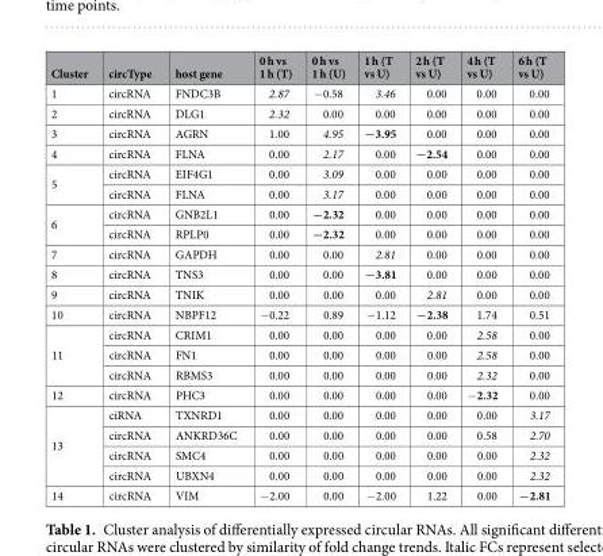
<table><thead><tr><td>Cluster</td><td>circType</td><td>host gene</td><td>0 h vs 1 h (T)</td><td>0 h vs 1 h (U)</td><td>1 h (T vs U)</td><td>2 h (T vs U)</td><td>4 h (T vs U)</td><td>6 h (T vs U)</td></tr></thead><tbody><tr><td>1</td><td>circRNA</td><td>FNDC3B</td><td>2.87</td><td>−0.58</td><td>3.46</td><td>0.00</td><td>0.00</td><td>0.00</td></tr><tr><td>2</td><td>circRNA</td><td>DLG1</td><td>2.32</td><td>0.00</td><td>0.00</td><td>0.00</td><td>0.00</td><td>0.00</td></tr><tr><td>3</td><td>circRNA</td><td>AGRN</td><td>1.00</td><td>4.95</td><td>−3.95</td><td>0.00</td><td>0.00</td><td>0.00</td></tr><tr><td>4</td><td>circRNA</td><td>FLNA</td><td>0.00</td><td>2.17</td><td>0.00</td><td>−2.54</td><td>0.00</td><td>0.00</td></tr><tr><td rowspan="2">5</td><td>circRNA</td><td>EIF4G1</td><td>0.00</td><td>3.09</td><td>0.00</td><td>0.00</td><td>0.00</td><td>0.00</td></tr><tr><td>circRNA</td><td>FLNA</td><td>0.00</td><td>3.17</td><td>0.00</td><td>0.00</td><td>0.00</td><td>0.00</td></tr><tr><td rowspan="2">6</td><td>circRNA</td><td>GNB2L1</td><td>0.00</td><td>−2.32</td><td>0.00</td><td>0.00</td><td>0.00</td><td>0.00</td></tr><tr><td>circRNA</td><td>RPLP0</td><td>0.00</td><td>−2.32</td><td>0.00</td><td>0.00</td><td>0.00</td><td>0.00</td></tr><tr><td>7</td><td>circRNA</td><td>GAPDH</td><td>0.00</td><td>0.00</td><td>2.81</td><td>0.00</td><td>0.00</td><td>0.00</td></tr><tr><td>8</td><td>circRNA</td><td>TNS3</td><td>0.00</td><td>0.00</td><td>−3.81</td><td>0.00</td><td>0.00</td><td>0.00</td></tr><tr><td>9</td><td>circRNA</td><td>TNIK</td><td>0.00</td><td>0.00</td><td>0.00</td><td>2.81</td><td>0.00</td><td>0.00</td></tr><tr><td>10</td><td>circRNA</td><td>NBPF12</td><td>−0.22</td><td>0.89</td><td>−1.12</td><td>−2.38</td><td>1.74</td><td>0.51</td></tr><tr><td rowspan="3">11</td><td>circRNA</td><td>CRIM1</td><td>0.00</td><td>0.00</td><td>0.00</td><td>0.00</td><td>2.58</td><td>0.00</td></tr><tr><td>circRNA</td><td>FN1</td><td>0.00</td><td>0.00</td><td>0.00</td><td>0.00</td><td>2.58</td><td>0.00</td></tr><tr><td>circRNA</td><td>RBMS3</td><td>0.00</td><td>0.00</td><td>0.00</td><td>0.00</td><td>2.32</td><td>0.00</td></tr><tr><td>12</td><td>circRNA</td><td>PHC3</td><td>0.00</td><td>0.00</td><td>0.00</td><td>0.00</td><td>−2.32</td><td>0.00</td></tr><tr><td rowspan="4">13</td><td>ciRNA</td><td>TXNRD1</td><td>0.00</td><td>0.00</td><td>0.00</td><td>0.00</td><td>0.00</td><td>3.17</td></tr><tr><td>circRNA</td><td>ANKRD36C</td><td>0.00</td><td>0.00</td><td>0.00</td><td>0.00</td><td>0.58</td><td>2.70</td></tr><tr><td>circRNA</td><td>SMC4</td><td>0.00</td><td>0.00</td><td>0.00</td><td>0.00</td><td>0.00</td><td>2.32</td></tr><tr><td>circRNA</td><td>UBXN4</td><td>0.00</td><td>0.00</td><td>0.00</td><td>0.00</td><td>0.00</td><td>2.32</td></tr><tr><td>14</td><td>circRNA</td><td>VIM</td><td>−2.00</td><td>0.00</td><td>−2.00</td><td>1.22</td><td>0.00</td><td>−2.81</td></tr></tbody></table>